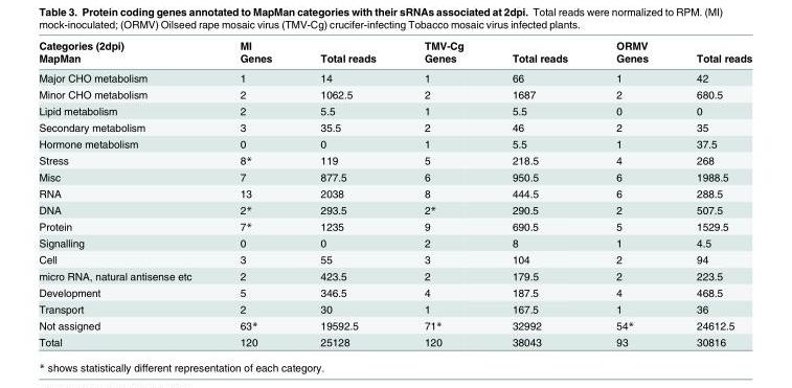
<table><thead><tr><td rowspan="2">Categories (2dpi) MapMan</td><td rowspan="2">MI Genes</td><td rowspan="2">Total reads</td><td rowspan="2">TMV-Cg Genes</td><td rowspan="2">Total reads</td><td rowspan="2">ORMV Genes</td><td rowspan="2">Total reads</td></tr><tr></tr></thead><tbody><tr><td>Major CHO metabolism</td><td>1</td><td>14</td><td>1</td><td>66</td><td>1</td><td>42</td></tr><tr><td>Minor CHO metabolism</td><td>2</td><td>1062.5</td><td>2</td><td>1687</td><td>2</td><td>680.5</td></tr><tr><td>Lipid metabolism</td><td>2</td><td>5.5</td><td>1</td><td>5.5</td><td>0</td><td>0</td></tr><tr><td>Secondary metabolism</td><td>3</td><td>35.5</td><td>2</td><td>46</td><td>2</td><td>35</td></tr><tr><td>Hormone metabolism</td><td>0</td><td>0</td><td>1</td><td>5.5</td><td>1</td><td>37.5</td></tr><tr><td>Stress</td><td>8*</td><td>119</td><td>5</td><td>218.5</td><td>4</td><td>268</td></tr><tr><td>Misc</td><td>7</td><td>877.5</td><td>6</td><td>950.5</td><td>6</td><td>1988.5</td></tr><tr><td>RNA</td><td>13</td><td>2038</td><td>8</td><td>444.5</td><td>6</td><td>288.5</td></tr><tr><td>DNA</td><td>2*</td><td>293.5</td><td>2*</td><td>290.5</td><td>2</td><td>507.5</td></tr><tr><td>Protein</td><td>7*</td><td>1235</td><td>9</td><td>690.5</td><td>5</td><td>1529.5</td></tr><tr><td>Signalling</td><td>0</td><td>0</td><td>2</td><td>8</td><td>1</td><td>4.5</td></tr><tr><td>Cell</td><td>3</td><td>55</td><td>3</td><td>104</td><td>2</td><td>94</td></tr><tr><td>micro RNA, natural antisense etc</td><td>2</td><td>423.5</td><td>2</td><td>179.5</td><td>2</td><td>223.5</td></tr><tr><td>Development</td><td>5</td><td>346.5</td><td>4</td><td>187.5</td><td>4</td><td>468.5</td></tr><tr><td>Transport</td><td>2</td><td>30</td><td>1</td><td>167.5</td><td>1</td><td>36</td></tr><tr><td>Not assigned</td><td>63*</td><td>19592.5</td><td>71*</td><td>32992</td><td>54*</td><td>24612.5</td></tr><tr><td>Total</td><td>120</td><td>25128</td><td>120</td><td>38043</td><td>93</td><td>30816</td></tr></tbody></table>